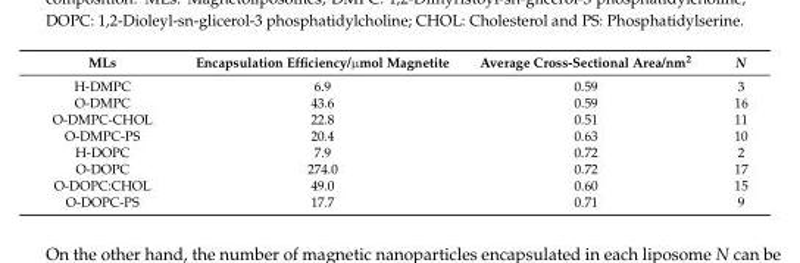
<table><thead><tr><td>MLs</td><td>Encapsulation Efficiency/µmol Magnetite</td><td>Average Cross-Sectional Area/nm<sup>2</sup></td><td>N</td></tr></thead><tbody><tr><td>H-DMPC</td><td>6.9</td><td>0.59</td><td>3</td></tr><tr><td>O-DMPC</td><td>43.6</td><td>0.59</td><td>16</td></tr><tr><td>O-DMPC-CHOL</td><td>22.8</td><td>0.51</td><td>11</td></tr><tr><td>O-DMPC-PS</td><td>20.4</td><td>0.63</td><td>10</td></tr><tr><td>H-DOPC</td><td>7.9</td><td>0.72</td><td>2</td></tr><tr><td>O-DOPC</td><td>274.0</td><td>0.72</td><td>17</td></tr><tr><td>O-DOPC:CHOL</td><td>49.0</td><td>0.60</td><td>15</td></tr><tr><td>O-DOPC-PS</td><td>17.7</td><td>0.71</td><td>9</td></tr></tbody></table>